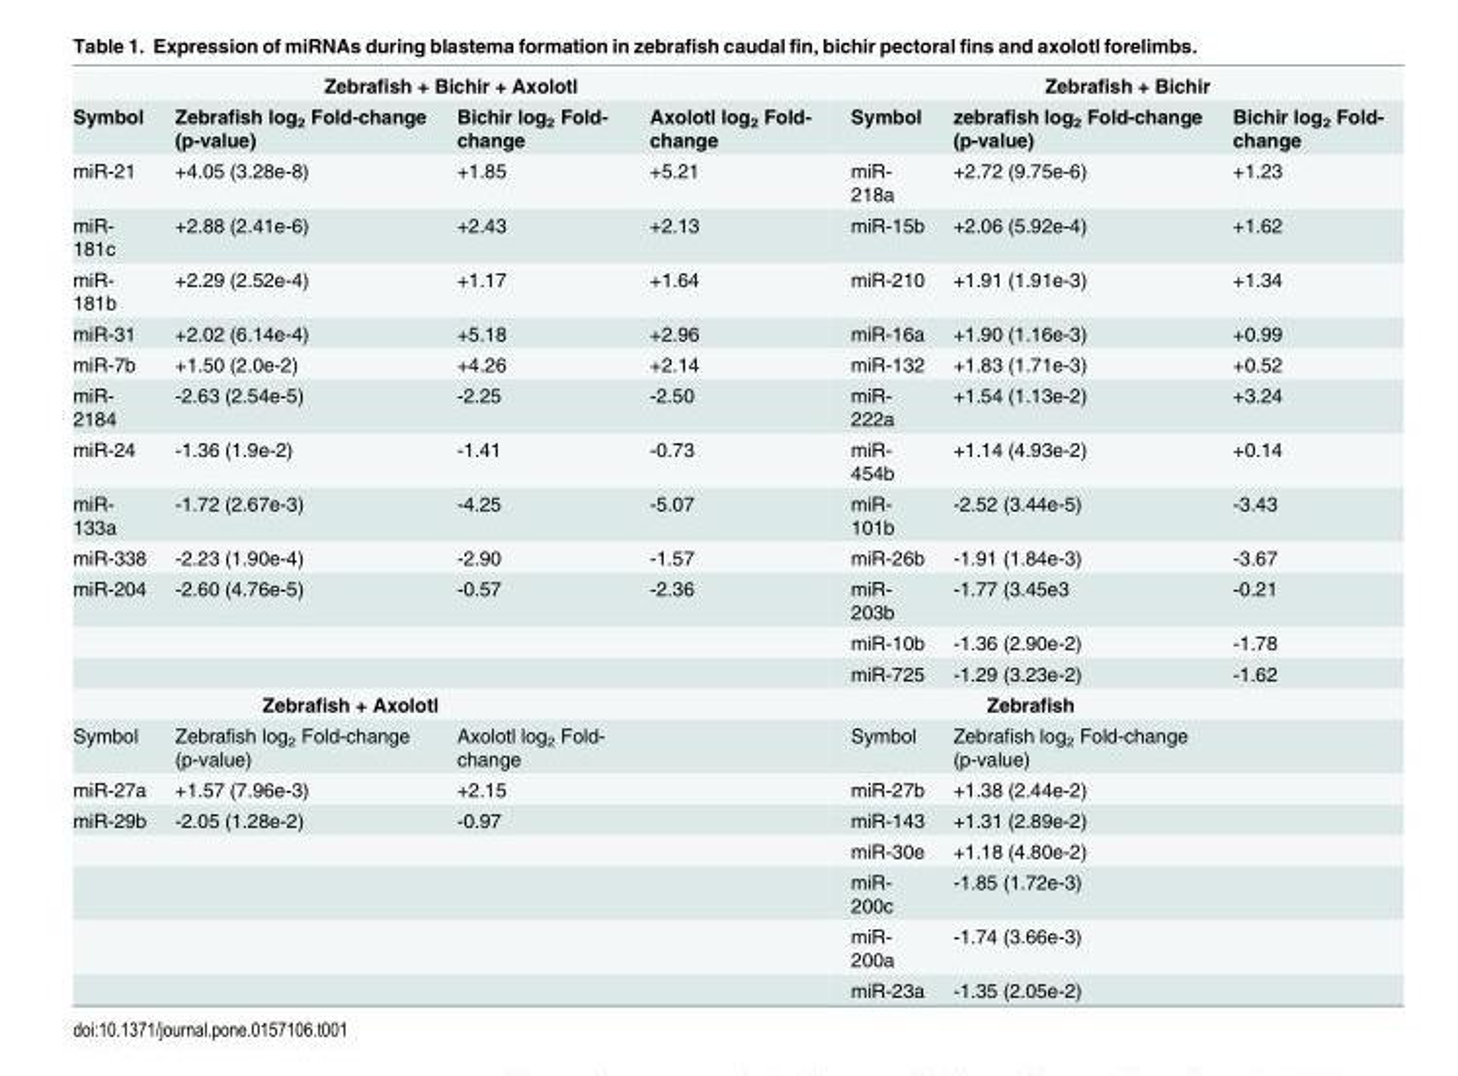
<table><tbody><tr><td colspan="4">Zebrafish + Bichir + Axolotl</td><td colspan="3">Zebrafish + Bichir</td></tr><tr><td>Symbol</td><td>Zebrafish log<sub>2</sub> Fold-change (p-value)</td><td>Bichir log<sub>2</sub> Fold- change</td><td>Axolotl log<sub>2</sub> Fold- change</td><td>Symbol</td><td>zebrafish log<sub>2</sub> Fold-change (p-value)</td><td>Bichir log<sub>2</sub> Fold- change</td></tr><tr><td>miR-21</td><td>+4.05 (3.28e-8)</td><td>+1.85</td><td>+5.21</td><td>miR- 218a</td><td>+2.72 (9.75e-6)</td><td>+1.23</td></tr><tr><td>miR- 181c</td><td>+2.88 (2.41e-6)</td><td>+2.43</td><td>+2.13</td><td>miR-15b</td><td>+2.06 (5.92e-4)</td><td>+1.62</td></tr><tr><td>miR- 181b</td><td>+2.29 (2.52e-4)</td><td>+1.17</td><td>+1.64</td><td>miR-210</td><td>+1.91 (1.91e-3)</td><td>+1.34</td></tr><tr><td>miR-31</td><td>+2.02 (6.14e-4)</td><td>+5.18</td><td>+2.96</td><td>miR-16a</td><td>+1.90 (1.16e-3)</td><td>+0.99</td></tr><tr><td>miR-7b</td><td>+1.50 (2.0e-2)</td><td>+4.26</td><td>+2.14</td><td>miR-132</td><td>+1.83 (1.71e-3)</td><td>+0.52</td></tr><tr><td>miR- 2184</td><td>-2.63 (2.54e-5)</td><td>-2.25</td><td>-2.50</td><td>miR- 222a</td><td>+1.54 (1.13e-2)</td><td>+3.24</td></tr><tr><td>miR-24</td><td>-1.36 (1.9e-2)</td><td>-1.41</td><td>-0.73</td><td>miR- 454b</td><td>+1.14 (4.93e-2)</td><td>+0.14</td></tr><tr><td>miR- 133a</td><td>-1.72 (2.67e-3)</td><td>-4.25</td><td>-5.07</td><td>miR- 101b</td><td>-2.52 (3.44e-5)</td><td>-3.43</td></tr><tr><td>miR-338</td><td>-2.23 (1.90e-4)</td><td>-2.90</td><td>-1.57</td><td>miR-26b</td><td>-1.91 (1.84e-3)</td><td>-3.67</td></tr><tr><td rowspan="3">miR-204</td><td>-2.60 (4.76e-5)</td><td>-0.57</td><td>-2.36</td><td>miR- 203b</td><td>-1.77 (3.45e3</td><td>-0.21</td></tr><tr><td></td><td></td><td></td><td>miR-10b</td><td>-1.36 (2.90e-2)</td><td>-1.78</td></tr><tr><td></td><td></td><td></td><td>miR-725</td><td>-1.29 (3.23e-2)</td><td>-1.62</td></tr><tr><td colspan="3">Zebrafish + Axolotl</td><td></td><td colspan="2">Zebrafish</td><td></td></tr><tr><td>Symbol</td><td>Zebrafish log<sub>2</sub> Fold-change (p-value)</td><td>Axolotl log<sub>2</sub> Fold- change</td><td></td><td>Symbol</td><td>Zebrafish log<sub>2</sub> Fold-change (p-value)</td><td></td></tr><tr><td>miR-27a</td><td>+1.57 (7.96e-3)</td><td>+2.15</td><td></td><td>miR-27b</td><td>+1.38 (2.44e-2)</td><td></td></tr><tr><td rowspan="5">miR-29b</td><td>-2.05 (1.28e-2)</td><td>-0.97</td><td></td><td>miR-143</td><td>+1.31 (2.89e-2)</td><td></td></tr><tr><td></td><td></td><td></td><td>miR-30e</td><td>+1.18 (4.80e-2)</td><td></td></tr><tr><td></td><td></td><td></td><td>miR- 200c</td><td>-1.85 (1.72e-3)</td><td></td></tr><tr><td></td><td></td><td></td><td>miR- 200a</td><td>-1.74 (3.66e-3)</td><td></td></tr><tr><td></td><td></td><td></td><td>miR-23a</td><td>-1.35 (2.05e-2)</td><td></td></tr></tbody></table>